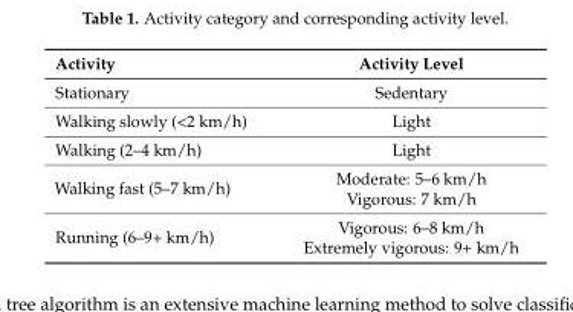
<table><thead><tr><td>Activity</td><td>Activity Level</td></tr></thead><tbody><tr><td>Stationary</td><td>Sedentary</td></tr><tr><td>Walking slowly (&lt;2 km/h)</td><td>Light</td></tr><tr><td>Walking (2–4 km/h)</td><td>Light</td></tr><tr><td rowspan="2">Walking fast (5–7 km/h)</td><td>Moderate: 5–6 km/h</td></tr><tr><td>Vigorous: 7 km/h</td></tr><tr><td rowspan="2">Running (6–9+ km/h)</td><td>Vigorous: 6–8 km/h</td></tr><tr><td>Extremely vigorous: 9+ km/h</td></tr></tbody></table>